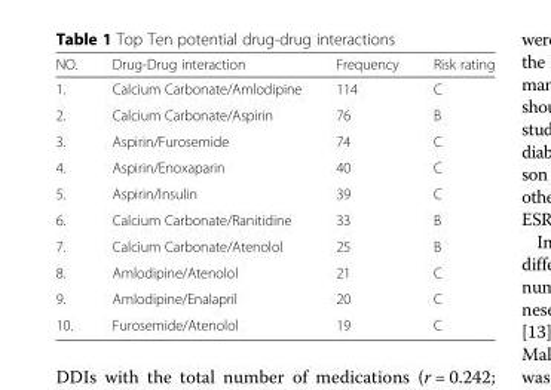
<table><thead><tr><td>NO.</td><td>Drug-Drug interaction</td><td>Frequency</td><td>Risk rating</td></tr></thead><tbody><tr><td>1.</td><td>Calcium Carbonate/Amlodipine</td><td>114</td><td>C</td></tr><tr><td>2.</td><td>Calcium Carbonate/Aspirin</td><td>76</td><td>B</td></tr><tr><td>3.</td><td>Aspirin/Furosemide</td><td>74</td><td>C</td></tr><tr><td>4.</td><td>Aspirin/Enoxaparin</td><td>40</td><td>C</td></tr><tr><td>5.</td><td>Aspirin/Insulin</td><td>39</td><td>C</td></tr><tr><td>6.</td><td>Calcium Carbonate/Ranitidine</td><td>33</td><td>B</td></tr><tr><td>7.</td><td>Calcium Carbonate/Atenolol</td><td>25</td><td>B</td></tr><tr><td>8.</td><td>Amlodipine/Atenolol</td><td>21</td><td>C</td></tr><tr><td>9.</td><td>Amlodipine/Enalapril</td><td>20</td><td>C</td></tr><tr><td>10.</td><td>Furosemide/Atenolol</td><td>19</td><td>C</td></tr></tbody></table>